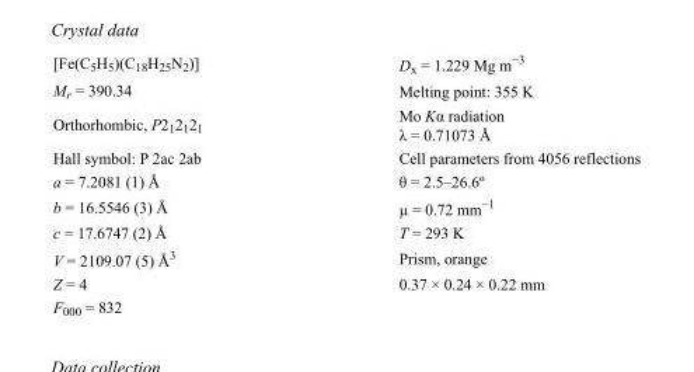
<table><tbody><tr><td>[Fe(C<sub>5</sub>H<sub>5</sub>)(C<sub>18</sub>H<sub>25</sub>N<sub>2</sub>)]</td><td>D<sub>x</sub> = 1.229 Mg m<sup>−3</sup></td></tr><tr><td>M<sub>r</sub> = 390.34</td><td>Melting point: 355 K</td></tr><tr><td>Orthorhombic, P2<sub>1</sub>2<sub>1</sub>2<sub>1</sub></td><td>Mo Kα radiation λ = 0.71073 Å</td></tr><tr><td>Hall symbol: P 2ac 2ab</td><td>Cell parameters from 4056 reflections</td></tr><tr><td>a = 7.2081 (1) Å</td><td>θ = 2.5–26.6º</td></tr><tr><td>b = 16.5546 (3) Å</td><td>µ = 0.72 mm<sup>−1</sup></td></tr><tr><td>c = 17.6747 (2) Å</td><td>T = 293 K</td></tr><tr><td>V = 2109.07 (5) Å<sup>3</sup></td><td>Prism, orange</td></tr><tr><td>Z = 4</td><td>0.37 × 0.24 × 0.22 mm</td></tr><tr><td>F000 = 832</td><td></td></tr></tbody></table>